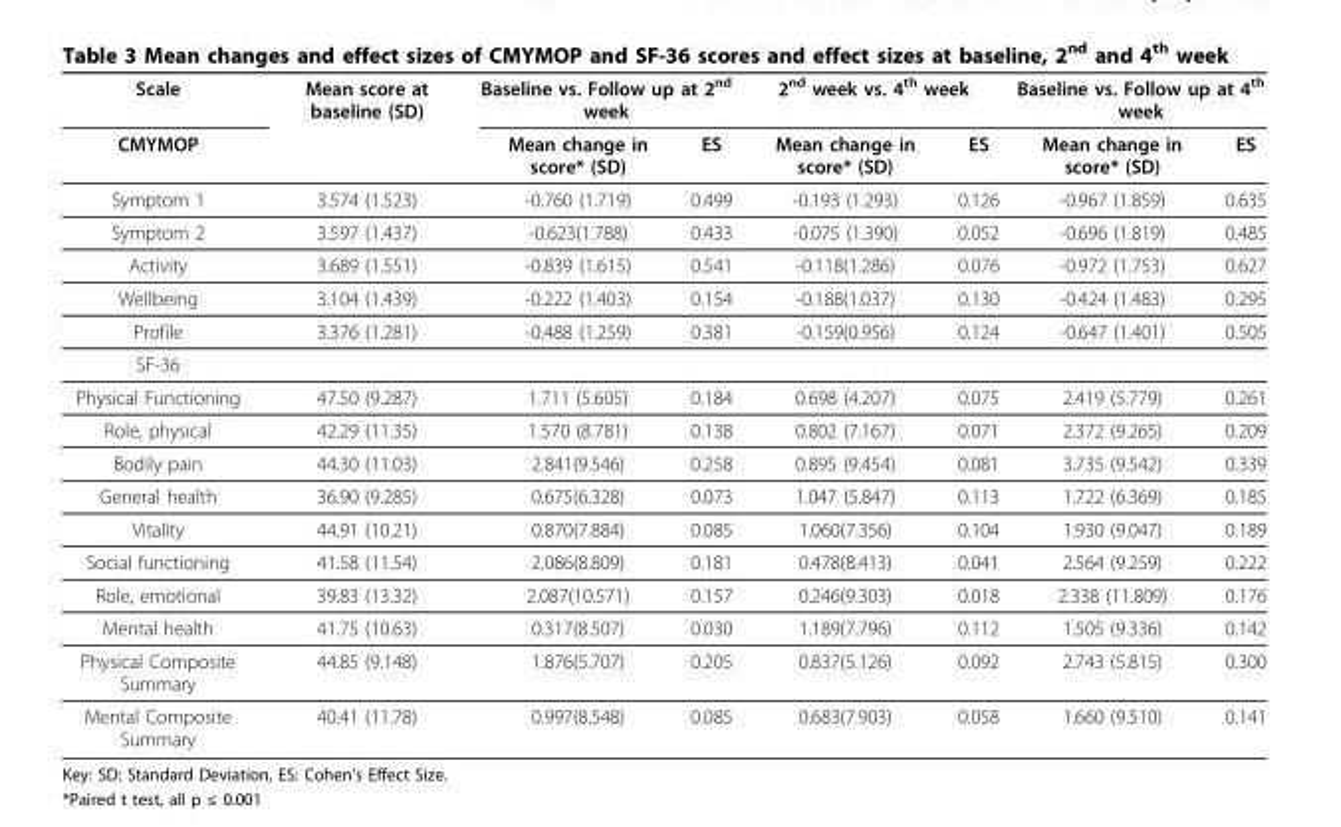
<table><thead><tr><td rowspan="2">Scale CMYMOP</td><td rowspan="2">Mean score at baseline (SD)</td><td colspan="2">Baseline vs. Follow up at 2<sup>nd</sup> week</td><td colspan="2">2<sup>nd</sup> week vs. 4<sup>th</sup> week</td><td colspan="2">Baseline vs. Follow up at 4<sup>th</sup> week</td></tr><tr><td>Mean change in score* (SD)</td><td>ES</td><td>Mean change in score* (SD)</td><td>ES</td><td>Mean change in score* (SD)</td><td>ES</td></tr></thead><tbody><tr><td>Symptom 1</td><td>3.574 (1.523)</td><td>-0.760 (1.719)</td><td>0.499</td><td>-0.193 (1.293)</td><td>0.126</td><td>-0.967 (1.859)</td><td>0.635</td></tr><tr><td>Symptom 2</td><td>3.597 (1.437)</td><td>-0.623(1.788)</td><td>0.433</td><td>-0.075 (1.390)</td><td>0.052</td><td>-0.696 (1.819)</td><td>0.485</td></tr><tr><td>Activity</td><td>3.689 (1.551)</td><td>-0.839 (1.615)</td><td>0.541</td><td>-0.118(1.286)</td><td>0.076</td><td>-0.972 (1.753)</td><td>0.627</td></tr><tr><td>Wellbeing</td><td>3.104 (1.439)</td><td>-0.222 (1.403)</td><td>0.154</td><td>-0.188(1.037)</td><td>0.130</td><td>-0.424 (1.483)</td><td>0.295</td></tr><tr><td>Profile</td><td>3.376 (1.281)</td><td>-0.488 (1.259)</td><td>0.381</td><td>-0.159(0.956)</td><td>0.124</td><td>-0.647 (1.401)</td><td>0.505</td></tr><tr><td colspan="8">SF-36</td></tr><tr><td>Physical Functioning</td><td>47.50 (9.287)</td><td>1.711 (5.605)</td><td>0.184</td><td>0.698 (4.207)</td><td>0.075</td><td>2.419 (5.779)</td><td>0.261</td></tr><tr><td>Role, physical</td><td>42.29 (11.35)</td><td>1.570 (8.781)</td><td>0.138</td><td>0.802 (7.167)</td><td>0.071</td><td>2.372 (9.265)</td><td>0.209</td></tr><tr><td>Bodily pain</td><td>44.30 (11.03)</td><td>2.841(9.546)</td><td>0.258</td><td>0.895 (9.454)</td><td>0.081</td><td>3.735 (9.542)</td><td>0.339</td></tr><tr><td>General health</td><td>36.90 (9.285)</td><td>0.675(6.328)</td><td>0.073</td><td>1.047 (5.847)</td><td>0.113</td><td>1.722 (6.369)</td><td>0.185</td></tr><tr><td>Vitality</td><td>44.91 (10.21)</td><td>0.870(7.884)</td><td>0.085</td><td>1.060(7.356)</td><td>0.104</td><td>1.930 (9.047)</td><td>0.189</td></tr><tr><td>Social functioning</td><td>41.58 (11.54)</td><td>2.086(8.809)</td><td>0.181</td><td>0.478(8.413)</td><td>0.041</td><td>2.564 (9.259)</td><td>0.222</td></tr><tr><td>Role, emotional</td><td>39.83 (13.32)</td><td>2.087(10.571)</td><td>0.157</td><td>0.246(9.303)</td><td>0.018</td><td>2.338 (11.809)</td><td>0.176</td></tr><tr><td>Mental health</td><td>41.75 (10.63)</td><td>0.317(8.507)</td><td>0.030</td><td>1.189(7.796)</td><td>0.112</td><td>1.505 (9.336)</td><td>0.142</td></tr><tr><td>Physical Composite Summary</td><td>44.85 (9.148)</td><td>1.876(5.707)</td><td>0.205</td><td>0.837(5.126)</td><td>0.092</td><td>2.743 (5.815)</td><td>0.300</td></tr><tr><td>Mental Composite Summary</td><td>40.41 (11.78)</td><td>0.997(8.548)</td><td>0.085</td><td>0.683(7.903)</td><td>0.058</td><td>1.660 (9.510)</td><td>0.141</td></tr></tbody></table>